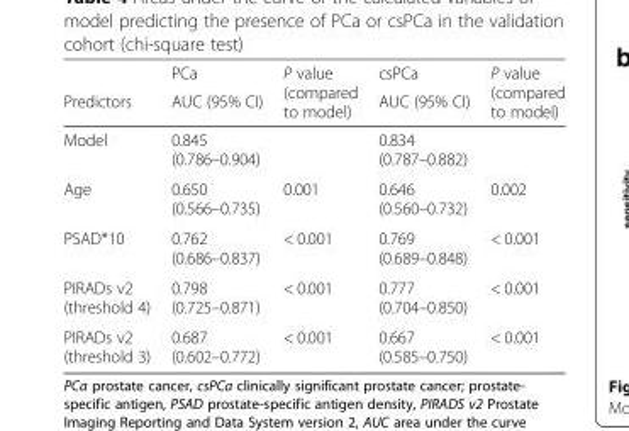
<table><thead><tr><td rowspan="2">Predictors</td><td rowspan="2">PCa AUC (95% CI)</td><td rowspan="2">P value (compared to model)</td><td rowspan="2">csPCa AUC (95% CI)</td><td rowspan="2">P value (compared to model)</td></tr><tr></tr></thead><tbody><tr><td>Model</td><td>0.845 (0.786–0.904)</td><td></td><td>0.834 (0.787–0.882)</td><td></td></tr><tr><td>Age</td><td>0.650 (0.566–0.735)</td><td>0.001</td><td>0.646 (0.560–0.732)</td><td>0.002</td></tr><tr><td>PSAD*10</td><td>0.762 (0.686–0.837)</td><td>&lt; 0.001</td><td>0.769 (0.689–0.848)</td><td>&lt; 0.001</td></tr><tr><td>PIRADs v2 (threshold 4)</td><td>0.798 (0.725–0.871)</td><td>&lt; 0.001</td><td>0.777 (0.704–0.850)</td><td>&lt; 0.001</td></tr><tr><td>PIRADs v2 (threshold 3)</td><td>0.687 (0.602–0.772)</td><td>&lt; 0.001</td><td>0.667 (0.585–0.750)</td><td>&lt; 0.001</td></tr></tbody></table>